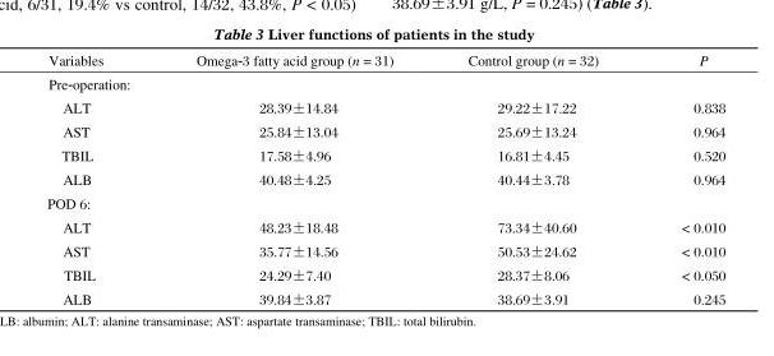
<table><thead><tr><td>Variables</td><td>Omega-3 fatty acid group (n = 31)</td><td>Control group (n = 32)</td><td>P</td></tr></thead><tbody><tr><td colspan="4">Pre-operation:</td></tr><tr><td>ALT</td><td>028.39±14.84</td><td>029.22±17.22</td><td>&lt; 0.838</td></tr><tr><td>AST</td><td>025.84±13.04</td><td>025.69±13.24</td><td>&lt; 0.964</td></tr><tr><td>TBIL</td><td>17.58±4.96</td><td>16.81±4.45</td><td>&lt; 0.520</td></tr><tr><td>ALB</td><td>40.48±4.25</td><td>40.44±3.78</td><td>&lt; 0.964</td></tr><tr><td colspan="4">POD 6:</td></tr><tr><td>ALT</td><td>048.23±18.48</td><td>073.34±40.60</td><td>&lt; 0.010</td></tr><tr><td>AST</td><td>035.77±14.56</td><td>050.53±24.62</td><td>&lt; 0.010</td></tr><tr><td>TBIL</td><td>24.29±7.40</td><td>28.37±8.06</td><td>&lt; 0.050</td></tr><tr><td>ALB</td><td>39.84±3.87</td><td>38.69±3.91</td><td>&lt; 0.245</td></tr></tbody></table>